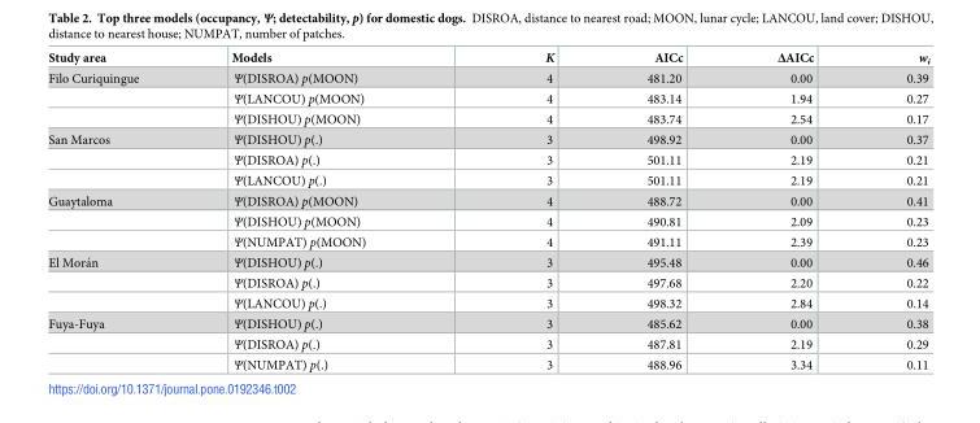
<table><thead><tr><td>Study area</td><td>Models</td><td>K</td><td>AICc</td><td>ΔAICc</td><td>w<sub>i</sub></td></tr></thead><tbody><tr><td rowspan="3">Filo Curiquingue</td><td>Ψ(DISROA) p(MOON)</td><td>4</td><td>481.20</td><td>0.00</td><td>0.39</td></tr><tr><td>Ψ(LANCOU) p(MOON)</td><td>4</td><td>483.14</td><td>1.94</td><td>0.27</td></tr><tr><td>Ψ(DISHOU) p(MOON)</td><td>4</td><td>483.74</td><td>2.54</td><td>0.17</td></tr><tr><td rowspan="3">San Marcos</td><td>Ψ(DISHOU) p(.)</td><td>3</td><td>498.92</td><td>0.00</td><td>0.37</td></tr><tr><td>Ψ(DISROA) p(.)</td><td>3</td><td>501.11</td><td>2.19</td><td>0.21</td></tr><tr><td>Ψ(LANCOU) p(.)</td><td>3</td><td>501.11</td><td>2.19</td><td>0.21</td></tr><tr><td rowspan="3">Guaytaloma</td><td>Ψ(DISROA) p(MOON)</td><td>4</td><td>488.72</td><td>0.00</td><td>0.41</td></tr><tr><td>Ψ(DISHOU) p(MOON)</td><td>4</td><td>490.81</td><td>2.09</td><td>0.23</td></tr><tr><td>Ψ(NUMPAT) p(MOON)</td><td>4</td><td>491.11</td><td>2.39</td><td>0.23</td></tr><tr><td rowspan="3">El Mora´n</td><td>Ψ(DISHOU) p(.)</td><td>3</td><td>495.48</td><td>0.00</td><td>0.46</td></tr><tr><td>Ψ(DISROA) p(.)</td><td>3</td><td>497.68</td><td>2.20</td><td>0.22</td></tr><tr><td>Ψ(LANCOU) p(.)</td><td>3</td><td>498.32</td><td>2.84</td><td>0.14</td></tr><tr><td rowspan="3">Fuya-Fuya</td><td>Ψ(DISHOU) p(.)</td><td>3</td><td>485.62</td><td>0.00</td><td>0.38</td></tr><tr><td>Ψ(DISROA) p(.)</td><td>3</td><td>487.81</td><td>2.19</td><td>0.29</td></tr><tr><td>Ψ(NUMPAT) p(.)</td><td>3</td><td>488.96</td><td>3.34</td><td>0.11</td></tr></tbody></table>